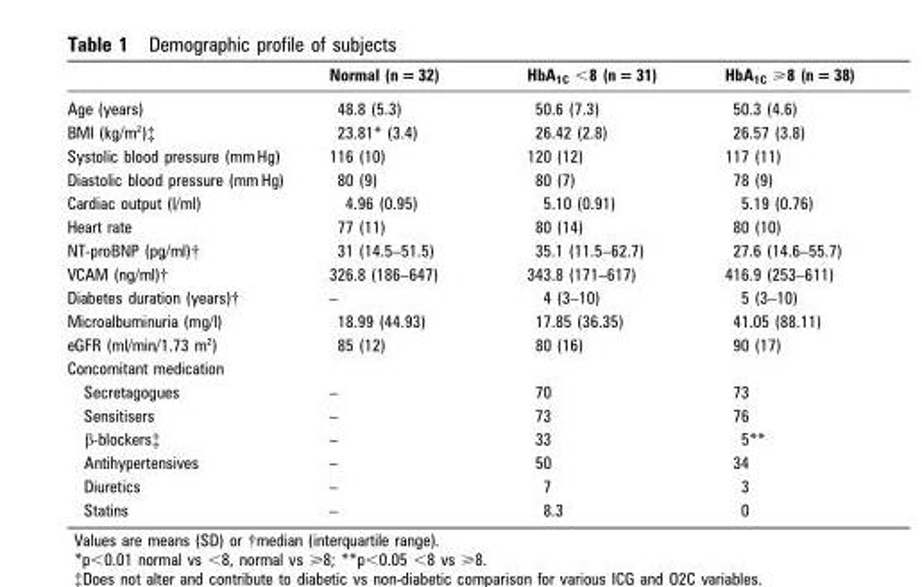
<table><thead><tr><td></td><td>Normal (n = 32)</td><td>HbA<sub>1C</sub> &lt;8 (n = 31)</td><td>HbA1C &gt;8 (n = 38)</td></tr></thead><tbody><tr><td>Age (years)</td><td>48.8 (5.3)</td><td>50.6 (7.3)</td><td>50.3 (4.6)</td></tr><tr><td>BMI (kg/m<sup>2</sup>)‡</td><td>23.81* (3.4)</td><td>26.42 (2.8)</td><td>26.57 (3.8)</td></tr><tr><td>Systolic blood pressure (mm Hg)</td><td>116 (10)</td><td>120 (12)</td><td>117 (11)</td></tr><tr><td>Diastolic blood pressure (mm Hg)</td><td>80 (9)</td><td>80 (7)</td><td>78 (9)</td></tr><tr><td>Cardiac output (l/ml)</td><td>4.96 (0.95)</td><td>5.10 (0.91)</td><td>5.19 (0.76)</td></tr><tr><td>Heart rate</td><td>77 (11)</td><td>80 (14)</td><td>80 (10)</td></tr><tr><td>NT-proBNP (pg/ml)†</td><td>31 (14.5–51.5)</td><td>35.1 (11.5–62.7)</td><td>27.6 (14.6–55.7)</td></tr><tr><td>VCAM (ng/ml)†</td><td>326.8 (186–647)</td><td>343.8 (171–617)</td><td>416.9 (253–611)</td></tr><tr><td>Diabetes duration (years)†</td><td>–</td><td>4 (3–10)</td><td>5 (3–10)</td></tr><tr><td>Microalbuminuria (mg/l)</td><td>18.99 (44.93)</td><td>17.85 (36.35)</td><td>41.05 (88.11)</td></tr><tr><td>eGFR (ml/min/1.73 m<sup>2</sup>)</td><td>85 (12)</td><td>80 (16)</td><td>90 (17)</td></tr><tr><td colspan="4">Concomitant medication</td></tr><tr><td>Secretagogues</td><td>–</td><td>70</td><td>73</td></tr><tr><td>Sensitisers</td><td>–</td><td>73</td><td>76</td></tr><tr><td>β-blockers‡</td><td>–</td><td>33</td><td>5**</td></tr><tr><td>Antihypertensives</td><td>–</td><td>50</td><td>34</td></tr><tr><td>Diuretics</td><td>–</td><td>7</td><td>3</td></tr><tr><td>Statins</td><td>–</td><td>8.3</td><td>0</td></tr></tbody></table>